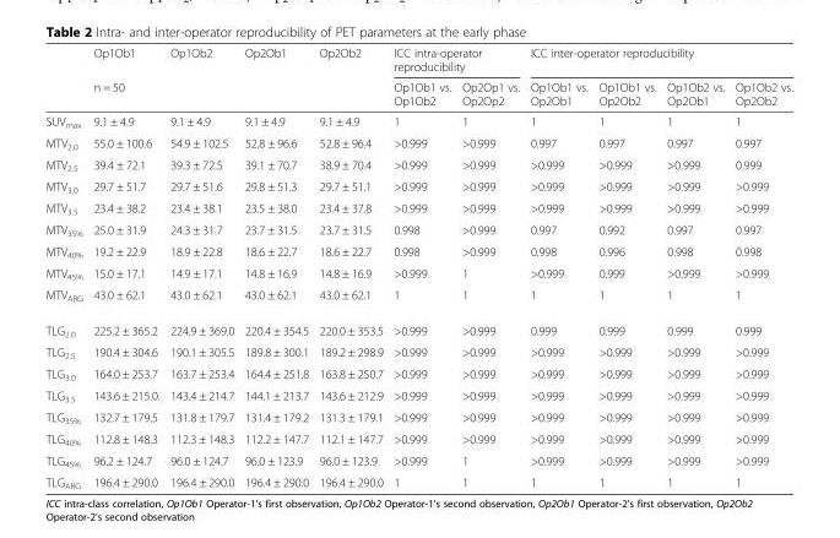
<table><thead><tr><td rowspan="2"></td><td>Op1Ob1</td><td>Op1Ob2</td><td>Op2Ob1</td><td>Op2Ob2</td><td colspan="2">ICC intra-operator reproducibility</td><td colspan="4">ICC inter-operator reproducibility</td></tr><tr><td colspan="4">n = 50</td><td>Op1Ob1 vs. Op1Ob2</td><td>Op2Op1 vs. Op2Op2</td><td>Op1Ob1 vs. Op2Ob1</td><td>Op1Ob1 vs. Op2Ob2</td><td>Op1Ob2 vs. Op2Ob1</td><td>Op1Ob2 vs. Op2Ob2</td></tr></thead><tbody><tr><td>SUV<sub>max</sub></td><td>9.1 ± 4.9</td><td>9.1 ± 4.9</td><td>9.1 ± 4.9</td><td>9.1 ± 4.9</td><td>1</td><td>1</td><td>1</td><td>1</td><td>1</td><td>1</td></tr><tr><td>MTV<sub>2.0</sub></td><td>55.0 ± 100.6</td><td>54.9 ± 102.5</td><td>52.8 ± 96.6</td><td>52.8 ± 96.4</td><td>&gt;0.999</td><td>&gt;0.999</td><td>0.997</td><td>0.997</td><td>0.997</td><td>0.997</td></tr><tr><td>MTV<sub>2.5</sub></td><td>39.4 ± 72.1</td><td>39.3 ± 72.5</td><td>39.1 ± 70.7</td><td>38.9 ± 70.4</td><td>&gt;0.999</td><td>&gt;0.999</td><td>&gt;0.999</td><td>&gt;0.999</td><td>&gt;0.999</td><td>0.999</td></tr><tr><td>MTV<sub>3.0</sub></td><td>29.7 ± 51.7</td><td>29.7 ± 51.6</td><td>29.8 ± 51.3</td><td>29.7 ± 51.1</td><td>&gt;0.999</td><td>&gt;0.999</td><td>&gt;0.999</td><td>&gt;0.999</td><td>&gt;0.999</td><td>&gt;0.999</td></tr><tr><td>MTV<sub>3.5</sub></td><td>23.4 ± 38.2</td><td>23.4 ± 38.1</td><td>23.5 ± 38.0</td><td>23.4 ± 37.8</td><td>&gt;0.999</td><td>&gt;0.999</td><td>&gt;0.999</td><td>&gt;0.999</td><td>&gt;0.999</td><td>&gt;0.999</td></tr><tr><td>MTV<sub>35%</sub></td><td>25.0 ± 31.9</td><td>24.3 ± 31.7</td><td>23.7 ± 31.5</td><td>23.7 ± 31.5</td><td>0.998</td><td>&gt;0.999</td><td>0.997</td><td>0.992</td><td>0.997</td><td>0.997</td></tr><tr><td>MTV<sub>40%</sub></td><td>19.2 ± 22.9</td><td>18.9 ± 22.8</td><td>18.6 ± 22.7</td><td>18.6 ± 22.7</td><td>0.998</td><td>&gt;0.999</td><td>0.998</td><td>0.996</td><td>0.998</td><td>0.998</td></tr><tr><td>MTV<sub>45%</sub></td><td>15.0 ± 17.1</td><td>14.9 ± 17.1</td><td>14.8 ± 16.9</td><td>14.8 ± 16.9</td><td>&gt;0.999</td><td>1</td><td>&gt;0.999</td><td>0.999</td><td>&gt;0.999</td><td>&gt;0.999</td></tr><tr><td>MTV<sub>ARG</sub></td><td>43.0 ± 62.1</td><td>43.0 ± 62.1</td><td>43.0 ± 62.1</td><td>43.0 ± 62.1</td><td>1</td><td>1</td><td>1</td><td>1</td><td>1</td><td>1</td></tr><tr><td>TLG<sub>2.0</sub></td><td>225.2 ± 365.2</td><td>224.9 ± 369.0</td><td>220.4 ± 354.5</td><td>220.0 ± 353.5</td><td>&gt;0.999</td><td>&gt;0.999</td><td>0.999</td><td>0.999</td><td>0.999</td><td>0.999</td></tr><tr><td>TLG<sub>2.5</sub></td><td>190.4 ± 304.6</td><td>190.1 ± 305.5</td><td>189.8 ± 300.1</td><td>189.2 ± 298.9</td><td>&gt;0.999</td><td>&gt;0.999</td><td>&gt;0.999</td><td>&gt;0.999</td><td>&gt;0.999</td><td>&gt;0.999</td></tr><tr><td>TLG<sub>3.0</sub></td><td>164.0 ± 253.7</td><td>163.7 ± 253.4</td><td>164.4 ± 251.8</td><td>163.8 ± 250.7</td><td>&gt;0.999</td><td>&gt;0.999</td><td>&gt;0.999</td><td>&gt;0.999</td><td>&gt;0.999</td><td>&gt;0.999</td></tr><tr><td>TLG<sub>3.5</sub></td><td>143.6 ± 215.0.</td><td>143.4 ± 214.7</td><td>144.1 ± 213.7</td><td>143.6 ± 212.9</td><td>&gt;0.999</td><td>&gt;0.999</td><td>&gt;0.999</td><td>&gt;0.999</td><td>&gt;0.999</td><td>&gt;0.999</td></tr><tr><td>TLG<sub>35%</sub></td><td>132.7 ± 179.5</td><td>131.8 ± 179.7</td><td>131.4 ± 179.2</td><td>131.3 ± 179.1</td><td>&gt;0.999</td><td>&gt;0.999</td><td>&gt;0.999</td><td>&gt;0.999</td><td>&gt;0.999</td><td>&gt;0.999</td></tr><tr><td>TLG<sub>40%</sub></td><td>112.8 ± 148.3</td><td>112.3 ± 148.3</td><td>112.2 ± 147.7</td><td>112.1 ± 147.7</td><td>&gt;0.999</td><td>&gt;0.999</td><td>&gt;0.999</td><td>&gt;0.999</td><td>&gt;0.999</td><td>&gt;0.999</td></tr><tr><td>TLG<sub>45%</sub></td><td>96.2 ± 124.7</td><td>96.0 ± 124.7</td><td>96.0 ± 123.9</td><td>96.0 ± 123.9</td><td>&gt;0.999</td><td>1</td><td>&gt;0.999</td><td>&gt;0.999</td><td>&gt;0.999</td><td>&gt;0.999</td></tr><tr><td>TLG<sub>ARG</sub></td><td>196.4 ± 290.0</td><td>196.4 ± 290.0</td><td>196.4 ± 290.0</td><td>196.4 ± 290.0</td><td>1</td><td>1</td><td>1</td><td>1</td><td>1</td><td>1</td></tr></tbody></table>